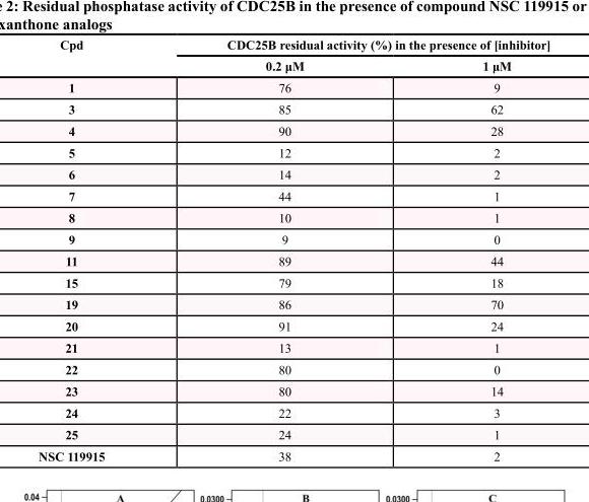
<table><thead><tr><td rowspan="2">Cpd</td><td colspan="2">CDC25B residual activity (%) in the presence of [inhibitor]</td></tr><tr><td>0.2 μM</td><td>1 μM</td></tr></thead><tbody><tr><td>1</td><td>76</td><td>9</td></tr><tr><td>3</td><td>85</td><td>62</td></tr><tr><td>4</td><td>90</td><td>28</td></tr><tr><td>5</td><td>12</td><td>2</td></tr><tr><td>6</td><td>14</td><td>2</td></tr><tr><td>7</td><td>44</td><td>1</td></tr><tr><td>8</td><td>10</td><td>1</td></tr><tr><td>9</td><td>9</td><td>0</td></tr><tr><td>11</td><td>89</td><td>44</td></tr><tr><td>15</td><td>79</td><td>18</td></tr><tr><td>19</td><td>86</td><td>70</td></tr><tr><td>20</td><td>91</td><td>24</td></tr><tr><td>21</td><td>13</td><td>1</td></tr><tr><td>22</td><td>80</td><td>0</td></tr><tr><td>23</td><td>80</td><td>14</td></tr><tr><td>24</td><td>22</td><td>3</td></tr><tr><td>25</td><td>24</td><td>1</td></tr><tr><td>NSC 119915</td><td>38</td><td>2</td></tr></tbody></table>